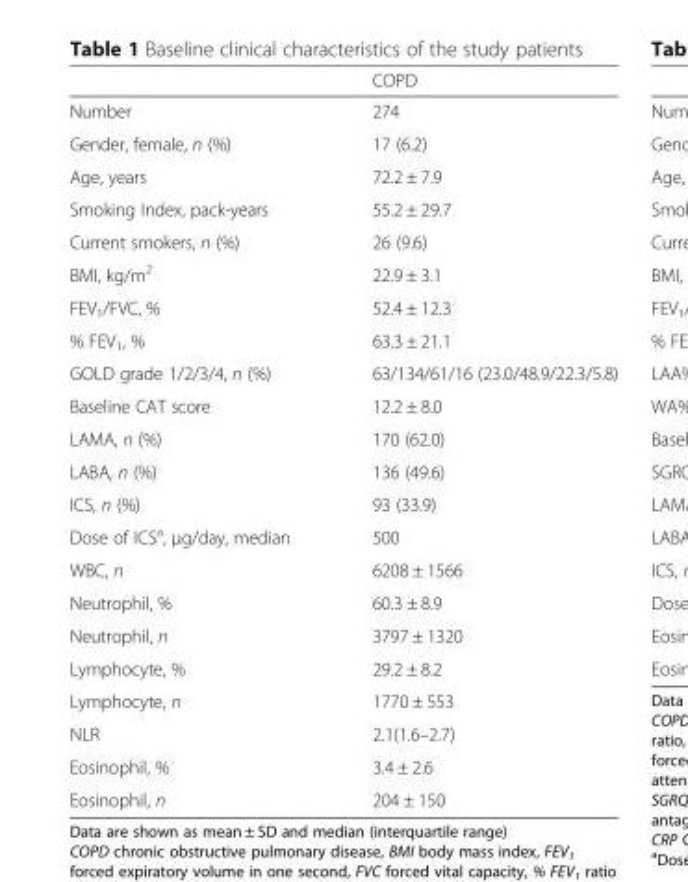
<table><thead><tr><td></td><td>COPD</td></tr></thead><tbody><tr><td>Number</td><td>274</td></tr><tr><td>Gender, female, n (%)</td><td>17 (6.2)</td></tr><tr><td>Age, years</td><td>72.2 ± 7.9</td></tr><tr><td>Smoking Index, pack-years</td><td>55.2 ± 29.7</td></tr><tr><td>Current smokers, n (%)</td><td>26 (9.6)</td></tr><tr><td>BMI, kg/m<sup>2</sup></td><td>22.9 ± 3.1</td></tr><tr><td>FEV<sub>1</sub>/FVC, %</td><td>52.4 ± 12.3</td></tr><tr><td>% FEV<sub>1</sub>, %</td><td>63.3 ± 21.1</td></tr><tr><td>GOLD grade 1/2/3/4, n (%)</td><td>63/134/61/16 (23.0/48.9/22.3/5.8)</td></tr><tr><td>Baseline CAT score</td><td>12.2 ± 8.0</td></tr><tr><td>LAMA, n (%)</td><td>170 (62.0)</td></tr><tr><td>LABA, n (%)</td><td>136 (49.6)</td></tr><tr><td>ICS, n (%)</td><td>93 (33.9)</td></tr><tr><td>Dose of ICS<sup>a</sup>, μg/day, median</td><td>500</td></tr><tr><td>WBC, n</td><td>6208 ± 1566</td></tr><tr><td>Neutrophil, %</td><td>60.3 ± 8.9</td></tr><tr><td>Neutrophil, n</td><td>3797 ± 1320</td></tr><tr><td>Lymphocyte, %</td><td>29.2 ± 8.2</td></tr><tr><td>Lymphocyte, n</td><td>1770 ± 553</td></tr><tr><td>NLR</td><td>2.1(1.6–2.7)</td></tr><tr><td>Eosinophil, %</td><td>3.4 ± 2.6</td></tr><tr><td>Eosinophil, n</td><td>204 ± 150</td></tr></tbody></table>